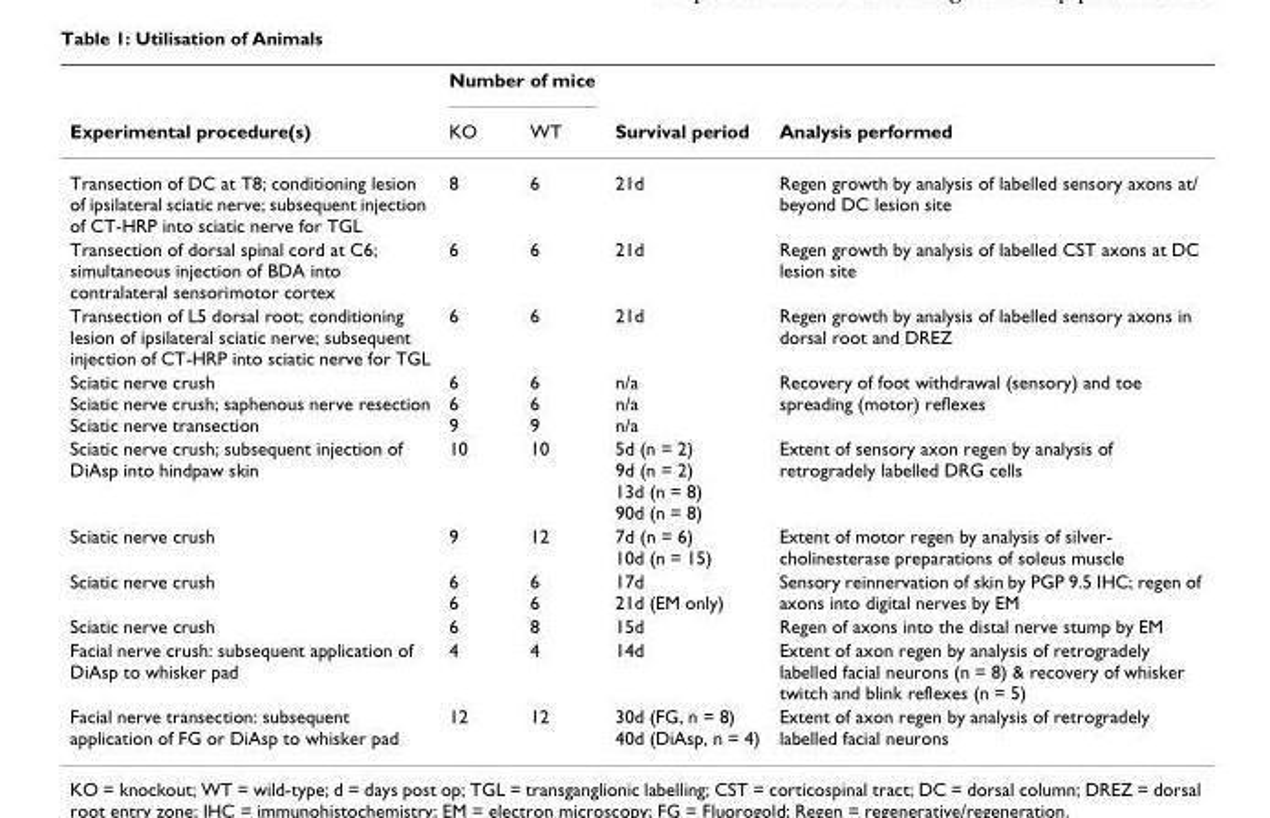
<table><thead><tr><td rowspan="2">Experimental procedure(s)</td><td colspan="2">Number of mice</td><td rowspan="2">Survival period</td><td rowspan="2">Analysis performed</td></tr><tr><td>KO</td><td>WT</td></tr></thead><tbody><tr><td>Transection of DC at T8; conditioning lesion of ipsilateral sciatic nerve; subsequent injection of CT-HRP into sciatic nerve for TGL</td><td>8</td><td>6</td><td>21d</td><td>Regen growth by analysis of labelled sensory axons at/ beyond DC lesion site</td></tr><tr><td>Transection of dorsal spinal cord at C6; simultaneous injection of BDA into contralateral sensorimotor cortex</td><td>6</td><td>6</td><td>21d</td><td>Regen growth by analysis of labelled CST axons at DC lesion site</td></tr><tr><td>Transection of L5 dorsal root; conditioning lesion of ipsilateral sciatic nerve; subsequent injection of CT-HRP into sciatic nerve for TGL</td><td>6</td><td>6</td><td>21d</td><td>Regen growth by analysis of labelled sensory axons in dorsal root and DREZ</td></tr><tr><td>Sciatic nerve crush Sciatic nerve crush; saphenous nerve resection Sciatic nerve transection</td><td>6 6 9</td><td>6 6 9</td><td>n/a n/a n/a</td><td>Recovery of foot withdrawal (sensory) and toe spreading (motor) reflexes</td></tr><tr><td>Sciatic nerve crush; subsequent injection of DiAsp into hindpaw skin</td><td>10</td><td>10</td><td>5d (n = 2) 9d (n = 2) 13d (n = 8) 90d (n = 8)</td><td>Extent of sensory axon regen by analysis of retrogradely labelled DRG cells</td></tr><tr><td>Sciatic nerve crush</td><td>9</td><td>12</td><td>7d (n = 6) 10d (n = 15)</td><td>Extent of motor regen by analysis of silver- cholinesterase preparations of soleus muscle</td></tr><tr><td>Sciatic nerve crush</td><td>6 6</td><td>6 6</td><td>17d 21d (EM only)</td><td>Sensory reinnervation of skin by PGP 9.5 IHC; regen of axons into digital nerves by EM</td></tr><tr><td>Sciatic nerve crush</td><td>6</td><td>8</td><td>15d</td><td>Regen of axons into the distal nerve stump by EM</td></tr><tr><td>Facial nerve crush: subsequent application of DiAsp to whisker pad</td><td>4</td><td>4</td><td>14d</td><td>Extent of axon regen by analysis of retrogradely labelled facial neurons (n = 8) &amp; recovery of whisker twitch and blink reflexes (n = 5)</td></tr><tr><td>Facial nerve transection: subsequent application of FG or DiAsp to whisker pad</td><td>12</td><td>12</td><td>30d (FG, n = 8) 40d (DiAsp, n = 4)</td><td>Extent of axon regen by analysis of retrogradely labelled facial neurons</td></tr></tbody></table>